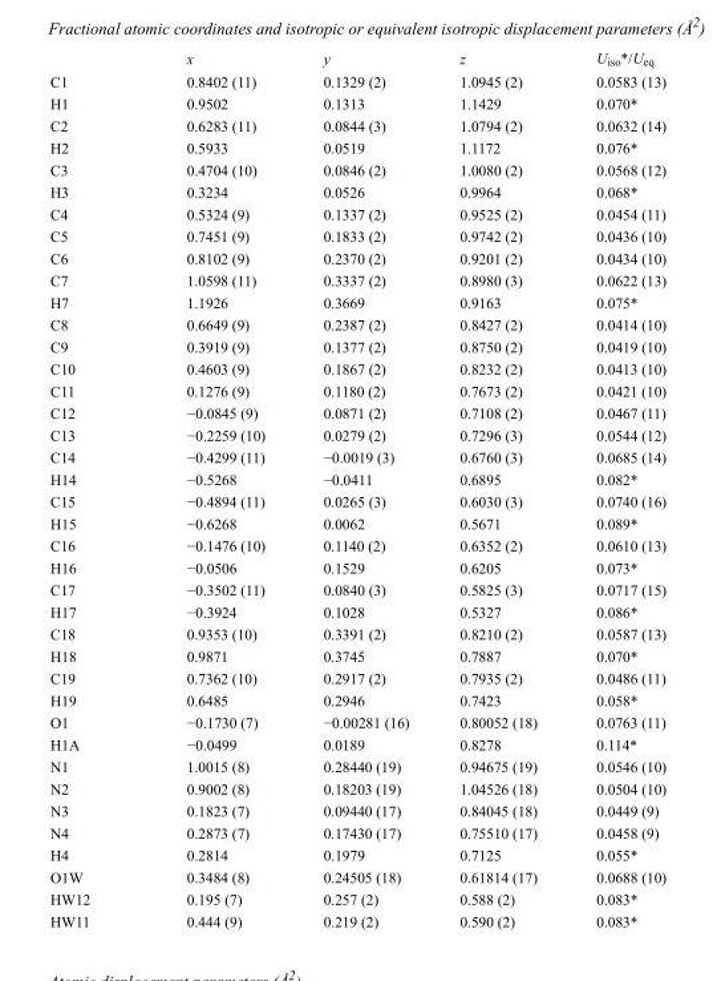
<table><thead><tr><td></td><td>x</td><td>y</td><td>z</td><td>U<sub>iso</sub>*/U<sub>eq</sub></td></tr></thead><tbody><tr><td>C1</td><td>0.8402 (11)</td><td>0.1329 (2)</td><td>1.0945 (2)</td><td>0.0583 (13)</td></tr><tr><td>H1</td><td>0.9502</td><td>0.1313</td><td>1.1429</td><td>0.070*</td></tr><tr><td>C2</td><td>0.6283 (11)</td><td>0.0844 (3)</td><td>1.0794 (2)</td><td>0.0632 (14)</td></tr><tr><td>H2</td><td>0.5933</td><td>0.0519</td><td>1.1172</td><td>0.076*</td></tr><tr><td>C3</td><td>0.4704 (10)</td><td>0.0846 (2)</td><td>1.0080 (2)</td><td>0.0568 (12)</td></tr><tr><td>H3</td><td>0.3234</td><td>0.0526</td><td>0.9964</td><td>0.068*</td></tr><tr><td>C4</td><td>0.5324 (9)</td><td>0.1337 (2)</td><td>0.9525 (2)</td><td>0.0454 (11)</td></tr><tr><td>C5</td><td>0.7451 (9)</td><td>0.1833 (2)</td><td>0.9742 (2)</td><td>0.0436 (10)</td></tr><tr><td>C6</td><td>0.8102 (9)</td><td>0.2370 (2)</td><td>0.9201 (2)</td><td>0.0434 (10)</td></tr><tr><td>C7</td><td>1.0598 (11)</td><td>0.3337 (2)</td><td>0.8980 (3)</td><td>0.0622 (13)</td></tr><tr><td>H7</td><td>1.1926</td><td>0.3669</td><td>0.9163</td><td>0.075*</td></tr><tr><td>C8</td><td>0.6649 (9)</td><td>0.2387 (2)</td><td>0.8427 (2)</td><td>0.0414 (10)</td></tr><tr><td>C9</td><td>0.3919 (9)</td><td>0.1377 (2)</td><td>0.8750 (2)</td><td>0.0419 (10)</td></tr><tr><td>C10</td><td>0.4603 (9)</td><td>0.1867 (2)</td><td>0.8232 (2)</td><td>0.0413 (10)</td></tr><tr><td>C11</td><td>0.1276 (9)</td><td>0.1180 (2)</td><td>0.7673 (2)</td><td>0.0421 (10)</td></tr><tr><td>C12</td><td>−0.0845 (9)</td><td>0.0871 (2)</td><td>0.7108 (2)</td><td>0.0467 (11)</td></tr><tr><td>C13</td><td>−0.2259 (10)</td><td>0.0279 (2)</td><td>0.7296 (3)</td><td>0.0544 (12)</td></tr><tr><td>C14</td><td>−0.4299 (11)</td><td>−0.0019 (3)</td><td>0.6760 (3)</td><td>0.0685 (14)</td></tr><tr><td>H14</td><td>−0.5268</td><td>−0.0411</td><td>0.6895</td><td>0.082*</td></tr><tr><td>C15</td><td>−0.4894 (11)</td><td>0.0265 (3)</td><td>0.6030 (3)</td><td>0.0740 (16)</td></tr><tr><td>H15</td><td>−0.6268</td><td>0.0062</td><td>0.5671</td><td>0.089*</td></tr><tr><td>C16</td><td>−0.1476 (10)</td><td>0.1140 (2)</td><td>0.6352 (2)</td><td>0.0610 (13)</td></tr><tr><td>H16</td><td>−0.0506</td><td>0.1529</td><td>0.6205</td><td>0.073*</td></tr><tr><td>C17</td><td>−0.3502 (11)</td><td>0.0840 (3)</td><td>0.5825 (3)</td><td>0.0717 (15)</td></tr><tr><td>H17</td><td>−0.3924</td><td>0.1028</td><td>0.5327</td><td>0.086*</td></tr><tr><td>C18</td><td>0.9353 (10)</td><td>0.3391 (2)</td><td>0.8210 (2)</td><td>0.0587 (13)</td></tr><tr><td>H18</td><td>0.9871</td><td>0.3745</td><td>0.7887</td><td>0.070*</td></tr><tr><td>C19</td><td>0.7362 (10)</td><td>0.2917 (2)</td><td>0.7935 (2)</td><td>0.0486 (11)</td></tr><tr><td>H19</td><td>0.6485</td><td>0.2946</td><td>0.7423</td><td>0.058*</td></tr><tr><td>O1</td><td>−0.1730 (7)</td><td>−0.00281 (16)</td><td>0.80052 (18)</td><td>0.0763 (11)</td></tr><tr><td>H1A</td><td>−0.0499</td><td>0.0189</td><td>0.8278</td><td>0.114*</td></tr><tr><td>N1</td><td>1.0015 (8)</td><td>0.28440 (19)</td><td>0.94675 (19)</td><td>0.0546 (10)</td></tr><tr><td>N2</td><td>0.9002 (8)</td><td>0.18203 (19)</td><td>1.04526 (18)</td><td>0.0504 (10)</td></tr><tr><td>N3</td><td>0.1823 (7)</td><td>0.09440 (17)</td><td>0.84045 (18)</td><td>0.0449 (9)</td></tr><tr><td>N4</td><td>0.2873 (7)</td><td>0.17430 (17)</td><td>0.75510 (17)</td><td>0.0458 (9)</td></tr><tr><td>H4</td><td>0.2814</td><td>0.1979</td><td>0.7125</td><td>0.055*</td></tr><tr><td>O1W</td><td>0.3484 (8)</td><td>0.24505 (18)</td><td>0.61814 (17)</td><td>0.0688 (10)</td></tr><tr><td>HW12</td><td>0.195 (7)</td><td>0.257 (2)</td><td>0.588 (2)</td><td>0.083*</td></tr><tr><td>HW11</td><td>0.444 (9)</td><td>0.219 (2)</td><td>0.590 (2)</td><td>0.083*</td></tr></tbody></table>